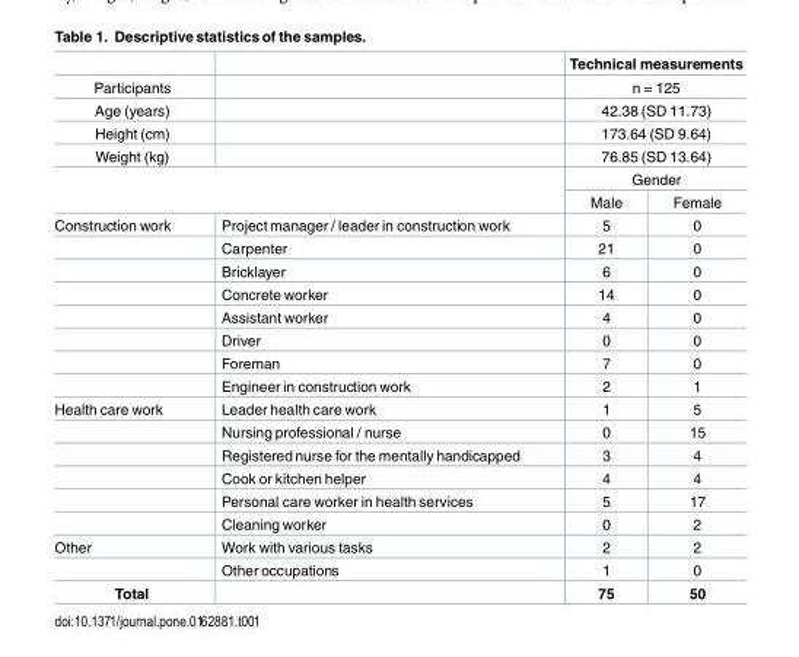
<table><thead><tr><td></td><td></td><td colspan="2">Technical measurements</td></tr></thead><tbody><tr><td>Participants</td><td></td><td colspan="2">n = 125</td></tr><tr><td>Age (years)</td><td></td><td colspan="2">42.38 (SD 11.73)</td></tr><tr><td>Height (cm)</td><td></td><td colspan="2">173.64 (SD 9.64)</td></tr><tr><td>Weight (kg)</td><td></td><td colspan="2">76.85 (SD 13.64)</td></tr><tr><td rowspan="2" colspan="2"></td><td colspan="2">Gender</td></tr><tr><td>Male</td><td>Female</td></tr><tr><td rowspan="8">Construction work</td><td>Project manager / leader in construction work</td><td>5</td><td>0</td></tr><tr><td>Carpenter</td><td>21</td><td>0</td></tr><tr><td>Bricklayer</td><td>6</td><td>0</td></tr><tr><td>Concrete worker</td><td>14</td><td>0</td></tr><tr><td>Assistant worker</td><td>4</td><td>0</td></tr><tr><td>Driver</td><td>0</td><td>0</td></tr><tr><td>Foreman</td><td>7</td><td>0</td></tr><tr><td>Engineer in construction work</td><td>2</td><td>1</td></tr><tr><td rowspan="6">Health care work</td><td>Leader health care work</td><td>1</td><td>5</td></tr><tr><td>Nursing professional / nurse</td><td>0</td><td>15</td></tr><tr><td>Registered nurse for the mentally handicapped</td><td>3</td><td>4</td></tr><tr><td>Cook or kitchen helper</td><td>4</td><td>4</td></tr><tr><td>Personal care worker in health services</td><td>5</td><td>17</td></tr><tr><td>Cleaning worker</td><td>0</td><td>2</td></tr><tr><td rowspan="2">Other</td><td>Work with various tasks</td><td>2</td><td>2</td></tr><tr><td>Other occupations</td><td>1</td><td>0</td></tr><tr><td>Total</td><td></td><td>75</td><td>50</td></tr></tbody></table>